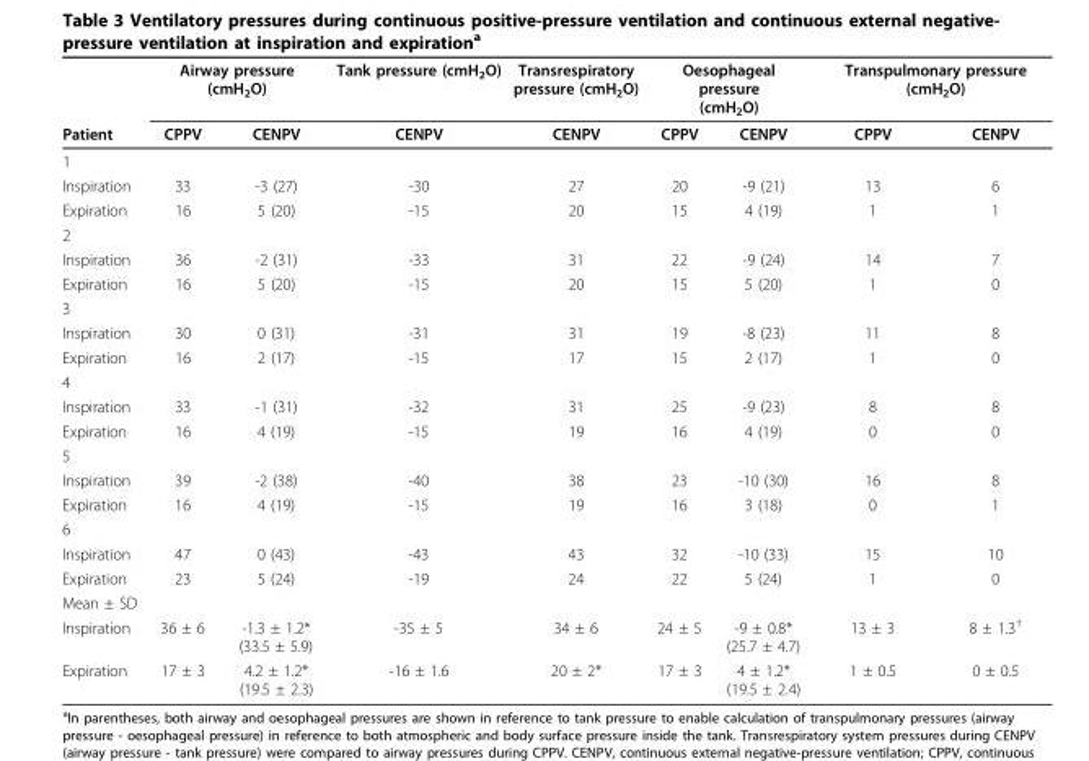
<table><thead><tr><td rowspan="2">Patient</td><td colspan="2">Airway pressure (cmH<sub>2</sub>O)</td><td rowspan="2">Tank pressure (cmH<sub>2</sub>O) CENPV</td><td rowspan="2">Transrespiratory pressure (cmH<sub>2</sub>O) CENPV</td><td colspan="2">Oesophageal pressure (cmH<sub>2</sub>O)</td><td colspan="2">Transpulmonary pressure (cmH<sub>2</sub>O)</td></tr><tr><td>CPPV</td><td>CENPV</td><td>CPPV</td><td>CENPV</td><td>CPPV</td><td>CENPV</td></tr></thead><tbody><tr><td colspan="9">1</td></tr><tr><td>Inspiration</td><td>33</td><td>-3 (27)</td><td>-30</td><td>27</td><td>20</td><td>-9 (21)</td><td>13</td><td>6</td></tr><tr><td>Expiration</td><td>16</td><td>5 (20)</td><td>-15</td><td>20</td><td>15</td><td>4 (19)</td><td>1</td><td>1</td></tr><tr><td colspan="9">2</td></tr><tr><td>Inspiration</td><td>36</td><td>-2 (31)</td><td>-33</td><td>31</td><td>22</td><td>-9 (24)</td><td>14</td><td>7</td></tr><tr><td>Expiration</td><td>16</td><td>5 (20)</td><td>-15</td><td>20</td><td>15</td><td>5 (20)</td><td>1</td><td>0</td></tr><tr><td colspan="9">3</td></tr><tr><td>Inspiration</td><td>30</td><td>0 (31)</td><td>-31</td><td>31</td><td>19</td><td>-8 (23)</td><td>11</td><td>8</td></tr><tr><td>Expiration</td><td>16</td><td>2 (17)</td><td>-15</td><td>17</td><td>15</td><td>2 (17)</td><td>1</td><td>0</td></tr><tr><td colspan="9">4</td></tr><tr><td>Inspiration</td><td>33</td><td>-1 (31)</td><td>-32</td><td>31</td><td>25</td><td>-9 (23)</td><td>8</td><td>8</td></tr><tr><td>Expiration</td><td>16</td><td>4 (19)</td><td>-15</td><td>19</td><td>16</td><td>4 (19)</td><td>0</td><td>0</td></tr><tr><td colspan="9">5</td></tr><tr><td>Inspiration</td><td>39</td><td>-2 (38)</td><td>-40</td><td>38</td><td>23</td><td>-10 (30)</td><td>16</td><td>8</td></tr><tr><td>Expiration</td><td>16</td><td>4 (19)</td><td>-15</td><td>19</td><td>16</td><td>3 (18)</td><td>0</td><td>1</td></tr><tr><td colspan="9">6</td></tr><tr><td>Inspiration</td><td>47</td><td>0 (43)</td><td>-43</td><td>43</td><td>32</td><td>-10 (33)</td><td>15</td><td>10</td></tr><tr><td>Expiration</td><td>23</td><td>5 (24)</td><td>-19</td><td>24</td><td>22</td><td>5 (24)</td><td>1</td><td>0</td></tr><tr><td colspan="9">Mean ± SD</td></tr><tr><td>Inspiration</td><td>36 ± 6</td><td>-1.3 ± 1.2* (33.5 ± 5.9)</td><td>-35 ± 5</td><td>34 ± 6</td><td>24 ± 5</td><td>-9 ± 0.8* (25.7 ± 4.7)</td><td>13 ± 3</td><td>8 ± 1.3<sup>†</sup></td></tr><tr><td>Expiration</td><td>17 ± 3</td><td>4.2 ± 1.2* (19.5 ± 2.3)</td><td>-16 ± 1.6</td><td>20 ± 2*</td><td>17 ± 3</td><td>4 ± 1.2* (19.5 ± 2.4)</td><td>1 ± 0.5</td><td>0 ± 0.5</td></tr></tbody></table>